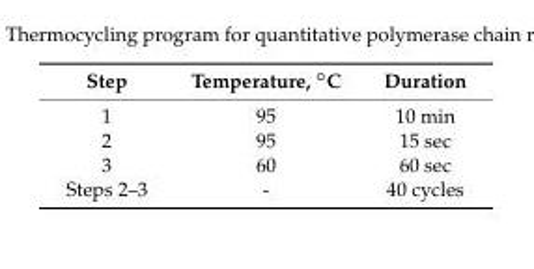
<table><thead><tr><td>Step</td><td>Temperature, ◦C</td><td>Duration</td></tr></thead><tbody><tr><td>1</td><td>95</td><td>10 min</td></tr><tr><td>2</td><td>95</td><td>15 sec</td></tr><tr><td>3</td><td>60</td><td>60 sec</td></tr><tr><td>Steps 2–3</td><td>-</td><td>40 cycles</td></tr></tbody></table>